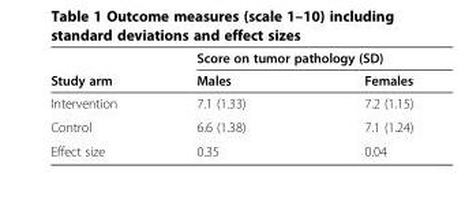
<table><thead><tr><td rowspan="2">Study arm</td><td colspan="2">Score on tumor pathology (SD)</td></tr><tr><td>Males</td><td>Females</td></tr></thead><tbody><tr><td>Intervention</td><td>7.1 (1.33)</td><td>7.2 (1.15)</td></tr><tr><td>Control</td><td>6.6 (1.38)</td><td>7.1 (1.24)</td></tr><tr><td>Effect size</td><td>0.35</td><td>0.04</td></tr></tbody></table>